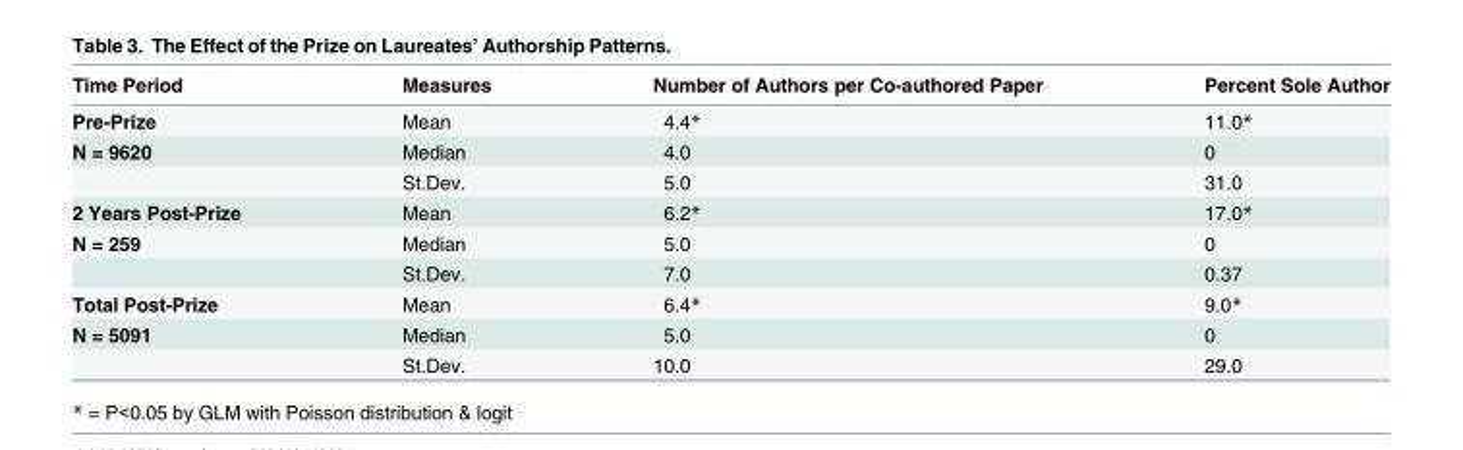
<table><thead><tr><td>Time Period</td><td>Measures</td><td>Number of Authors per Co-authored Paper</td><td>Percent Sole Author</td></tr></thead><tbody><tr><td>Pre-Prize</td><td>Mean</td><td>4.4*</td><td>11.0*</td></tr><tr><td rowspan="2">N = 9620</td><td>Median</td><td>4.0</td><td>0</td></tr><tr><td>St.Dev.</td><td>5.0</td><td>31.0</td></tr><tr><td>2 Years Post-Prize</td><td>Mean</td><td>6.2*</td><td>17.0*</td></tr><tr><td rowspan="2">N = 259</td><td>Median</td><td>5.0</td><td>0</td></tr><tr><td>St.Dev.</td><td>7.0</td><td>0.37</td></tr><tr><td>Total Post-Prize</td><td>Mean</td><td>6.4*</td><td>9.0*</td></tr><tr><td rowspan="2">N = 5091</td><td>Median</td><td>5.0</td><td>0</td></tr><tr><td>St.Dev.</td><td>10.0</td><td>29.0</td></tr></tbody></table>